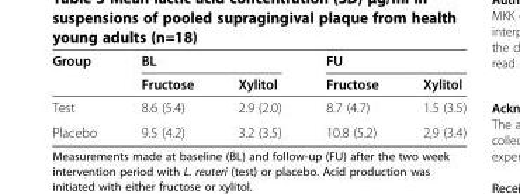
<table><thead><tr><td rowspan="2">Group</td><td colspan="2">BL</td><td colspan="2">FU</td></tr><tr><td>Fructose</td><td>Xylitol</td><td>Fructose</td><td>Xylitol</td></tr></thead><tbody><tr><td>Test</td><td>8.6 (5.4)</td><td>2.9 (2.0)</td><td>8.7 (4.7)</td><td>1.5 (3.5)</td></tr><tr><td>Placebo</td><td>9.5 (4.2)</td><td>3.2 (3.5)</td><td>10.8 (5.2)</td><td>2,9 (3.4)</td></tr></tbody></table>